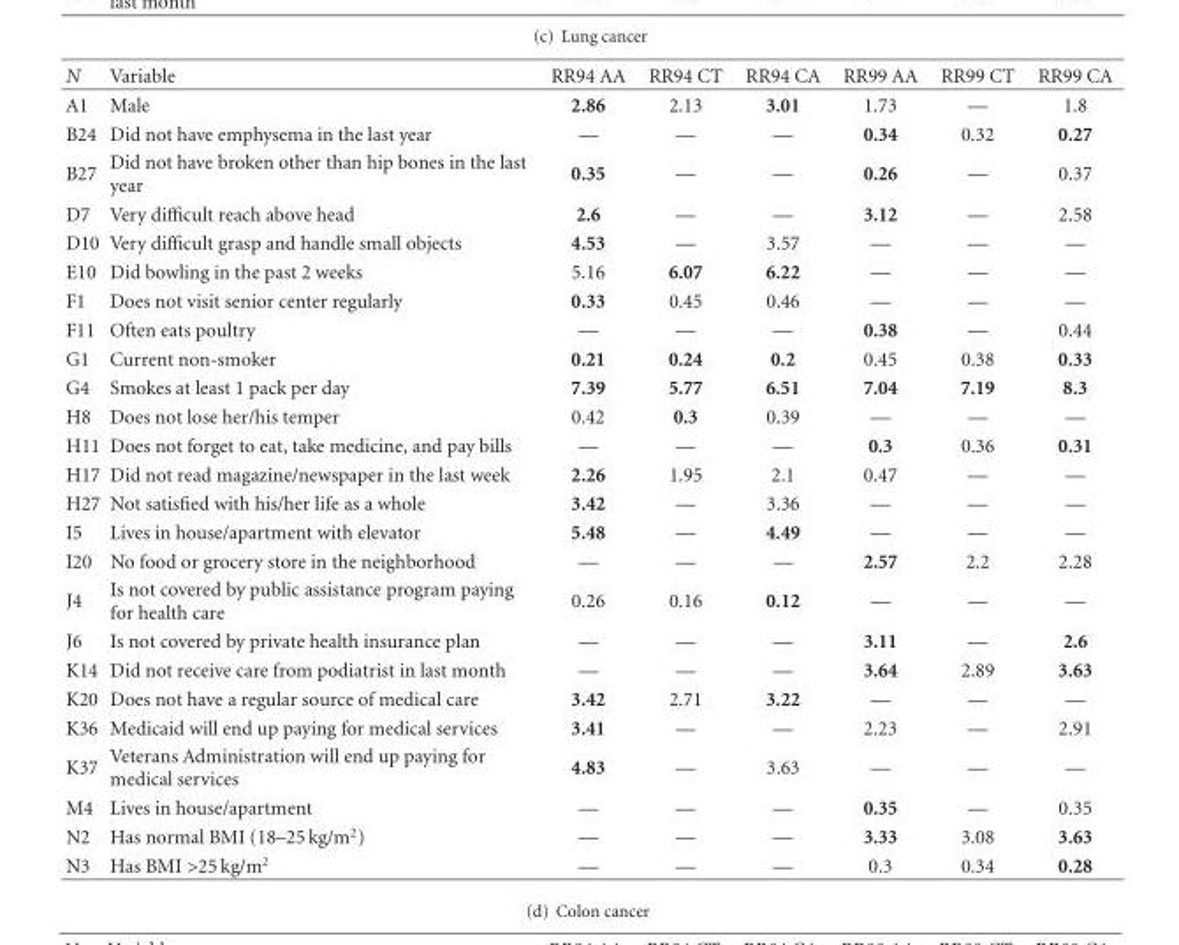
<table><thead><tr><td>N</td><td>Variable</td><td>RR94 AA</td><td>RR94 CT</td><td>RR94 CA</td><td>RR99 AA</td><td>RR99 CT</td><td>RR99 CA</td></tr></thead><tbody><tr><td>A1</td><td>Male</td><td>2.86</td><td>2.13</td><td>3.01</td><td>1.73</td><td>—</td><td>1.8</td></tr><tr><td>B24</td><td>Did not have emphysema in the last year</td><td>—</td><td>—</td><td>—</td><td>0.34</td><td>0.32</td><td>0.27</td></tr><tr><td>B27</td><td>Did not have broken other than hip bones in the last year</td><td>0.35</td><td>—</td><td>—</td><td>0.26</td><td>—</td><td>0.37</td></tr><tr><td>D7</td><td>Very difficult reach above head</td><td>2.6</td><td>—</td><td>—</td><td>3.12</td><td>—</td><td>2.58</td></tr><tr><td>D10</td><td>Very difficult grasp and handle small objects</td><td>4.53</td><td>—</td><td>3.57</td><td>—</td><td>—</td><td>—</td></tr><tr><td>E10</td><td>Did bowling in the past 2 weeks</td><td>5.16</td><td>6.07</td><td>6.22</td><td>—</td><td>—</td><td>—</td></tr><tr><td>F1</td><td>Does not visit senior center regularly</td><td>0.33</td><td>0.45</td><td>0.46</td><td>—</td><td>—</td><td>—</td></tr><tr><td>F11</td><td>Often eats poultry</td><td>—</td><td>—</td><td>—</td><td>0.38</td><td>—</td><td>0.44</td></tr><tr><td>G1</td><td>Current non-smoker</td><td>0.21</td><td>0.24</td><td>0.2</td><td>0.45</td><td>0.38</td><td>0.33</td></tr><tr><td>G4</td><td>Smokes at least 1 pack per day</td><td>7.39</td><td>5.77</td><td>6.51</td><td>7.04</td><td>7.19</td><td>8.3</td></tr><tr><td>H8</td><td>Does not lose her/his temper</td><td>0.42</td><td>0.3</td><td>0.39</td><td>—</td><td>—</td><td>—</td></tr><tr><td>H11</td><td>Does not forget to eat, take medicine, and pay bills</td><td>—</td><td>—</td><td>—</td><td>0.3</td><td>0.36</td><td>0.31</td></tr><tr><td>H17</td><td>Did not read magazine/newspaper in the last week</td><td>2.26</td><td>1.95</td><td>2.1</td><td>0.47</td><td>—</td><td>—</td></tr><tr><td>H27</td><td>Not satisfied with his/her life as a whole</td><td>3.42</td><td>—</td><td>3.36</td><td>—</td><td>—</td><td>—</td></tr><tr><td>I5</td><td>Lives in house/apartment with elevator</td><td>5.48</td><td>—</td><td>4.49</td><td>—</td><td>—</td><td>—</td></tr><tr><td>I20</td><td>No food or grocery store in the neighborhood</td><td>—</td><td>—</td><td>—</td><td>2.57</td><td>2.2</td><td>2.28</td></tr><tr><td>J4</td><td>Is not covered by public assistance program paying for health care</td><td>0.26</td><td>0.16</td><td>0.12</td><td>—</td><td>—</td><td>—</td></tr><tr><td>J6</td><td>Is not covered by private health insurance plan</td><td>—</td><td>—</td><td>—</td><td>3.11</td><td>—</td><td>2.6</td></tr><tr><td>K14</td><td>Did not receive care from podiatrist in last month</td><td>—</td><td>—</td><td>—</td><td>3.64</td><td>2.89</td><td>3.63</td></tr><tr><td>K20</td><td>Does not have a regular source of medical care</td><td>3.42</td><td>2.71</td><td>3.22</td><td>—</td><td>—</td><td>—</td></tr><tr><td>K36</td><td>Medicaid will end up paying for medical services</td><td>3.41</td><td>—</td><td>—</td><td>2.23</td><td>—</td><td>2.91</td></tr><tr><td>K37</td><td>Veterans Administration will end up paying for medical services</td><td>4.83</td><td>—</td><td>3.63</td><td>—</td><td>—</td><td>—</td></tr><tr><td>M4</td><td>Lives in house/apartment</td><td>—</td><td>—</td><td>—</td><td>0.35</td><td>—</td><td>0.35</td></tr><tr><td>N2</td><td>Has normal BMI (18–25 kg/m<sup>2</sup>)</td><td>—</td><td>—</td><td>—</td><td>3.33</td><td>3.08</td><td>3.63</td></tr><tr><td>N3</td><td>Has BMI &gt;25 kg/m<sup>2</sup></td><td>—</td><td>—</td><td>—</td><td>0.3</td><td>0.34</td><td>0.28</td></tr></tbody></table>